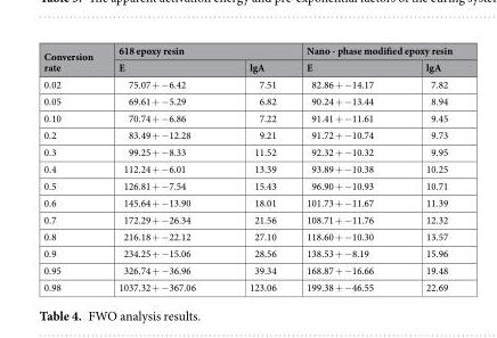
<table><thead><tr><td rowspan="2">Conversion rate</td><td colspan="2">618 epoxy resin</td><td colspan="2">Nano - phase modified epoxy resin</td></tr><tr><td>E</td><td>lgA</td><td>E</td><td>lgA</td></tr></thead><tbody><tr><td>0.02</td><td>75.07 + −6.42</td><td>7.51</td><td>82.86 + −14.17</td><td>7.82</td></tr><tr><td>0.05</td><td>69.61 + −5.29</td><td>6.82</td><td>90.24 + −13.44</td><td>8.94</td></tr><tr><td>0.10</td><td>70.74 + −6.86</td><td>7.22</td><td>91.41 + −11.61</td><td>9.45</td></tr><tr><td>0.2</td><td>83.49 + −12.28</td><td>9.21</td><td>91.72 + −10.74</td><td>9.73</td></tr><tr><td>0.3</td><td>99.25 + −8.33</td><td>11.52</td><td>92.32 + −10.32</td><td>9.95</td></tr><tr><td>0.4</td><td>112.24 + −6.01</td><td>13.39</td><td>93.89 + −10.38</td><td>10.25</td></tr><tr><td>0.5</td><td>126.81 + −7.54</td><td>15.43</td><td>96.90 + −10.93</td><td>10.71</td></tr><tr><td>0.6</td><td>145.64 + −13.90</td><td>18.01</td><td>101.73 + −11.67</td><td>11.39</td></tr><tr><td>0.7</td><td>172.29 + −26.34</td><td>21.56</td><td>108.71 + −11.76</td><td>12.32</td></tr><tr><td>0.8</td><td>216.18 + −22.12</td><td>27.10</td><td>118.60 + −10.30</td><td>13.57</td></tr><tr><td>0.9</td><td>234.25 + −15.06</td><td>28.56</td><td>138.53 + −8.19</td><td>15.96</td></tr><tr><td>0.95</td><td>326.74 + −36.96</td><td>39.34</td><td>168.87 + −16.66</td><td>19.48</td></tr><tr><td>0.98</td><td>1037.32 + −367.06</td><td>123.06</td><td>199.38 + −46.55</td><td>22.69</td></tr></tbody></table>